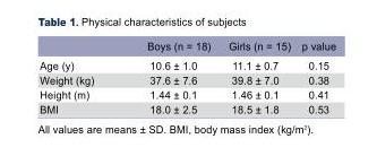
<table><thead><tr><td></td><td>Boys (n = 18)</td><td>Girls (n = 15)</td><td>p value</td></tr></thead><tbody><tr><td>Age (y)</td><td>10.6 ± 1.0</td><td>11.1 ± 0.7</td><td>0.15</td></tr><tr><td>Weight (kg)</td><td>37.6 ± 7.6</td><td>39.8 ± 7.0</td><td>0.38</td></tr><tr><td>Height (m)</td><td>1.44 ± 0.1</td><td>1.46 ± 0.1</td><td>0.41</td></tr><tr><td>BMI</td><td>18.0 ± 2.5</td><td>18.5 ± 1.8</td><td>0.53</td></tr></tbody></table>